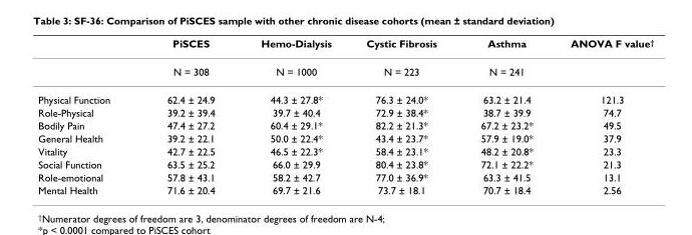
<table><thead><tr><td></td><td>PiSCES</td><td>Hemo-Dialysis</td><td>Cystic Fibrosis</td><td>Asthma</td><td>ANOVA F value<sup>†</sup></td></tr></thead><tbody><tr><td></td><td>N = 308</td><td>N = 1000</td><td>N = 223</td><td>N = 241</td><td></td></tr><tr><td>Physical Function</td><td>62.4 ± 24.9</td><td>44.3 ± 27.8*</td><td>76.3 ± 24.0*</td><td>63.2 ± 21.4</td><td>121.3</td></tr><tr><td>Role-Physical</td><td>39.2 ± 39.4</td><td>39.7 ± 40.4</td><td>72.9 ± 38.4*</td><td>38.7 ± 39.9</td><td>74.7</td></tr><tr><td>Bodily Pain</td><td>47.4 ± 27.2</td><td>60.4 ± 29.1*</td><td>82.2 ± 21.3*</td><td>67.2 ± 23.2*</td><td>49.5</td></tr><tr><td>General Health</td><td>39.2 ± 22.1</td><td>50.0 ± 22.4*</td><td>43.4 ± 23.7*</td><td>57.9 ± 19.0*</td><td>37.9</td></tr><tr><td>Vitality</td><td>42.7 ± 22.5</td><td>46.5 ± 22.3*</td><td>58.4 ± 23.1*</td><td>48.2 ± 20.8*</td><td>23.3</td></tr><tr><td>Social Function</td><td>63.5 ± 25.2</td><td>66.0 ± 29.9</td><td>80.4 ± 23.8*</td><td>72.1 ± 22.2*</td><td>21.3</td></tr><tr><td>Role-emotional</td><td>57.8 ± 43.1</td><td>58.2 ± 42.7</td><td>77.0 ± 36.9*</td><td>63.3 ± 41.5</td><td>13.1</td></tr><tr><td>Mental Health</td><td>71.6 ± 20.4</td><td>69.7 ± 21.6</td><td>73.7 ± 18.1</td><td>70.7 ± 18.4</td><td>2.56</td></tr></tbody></table>